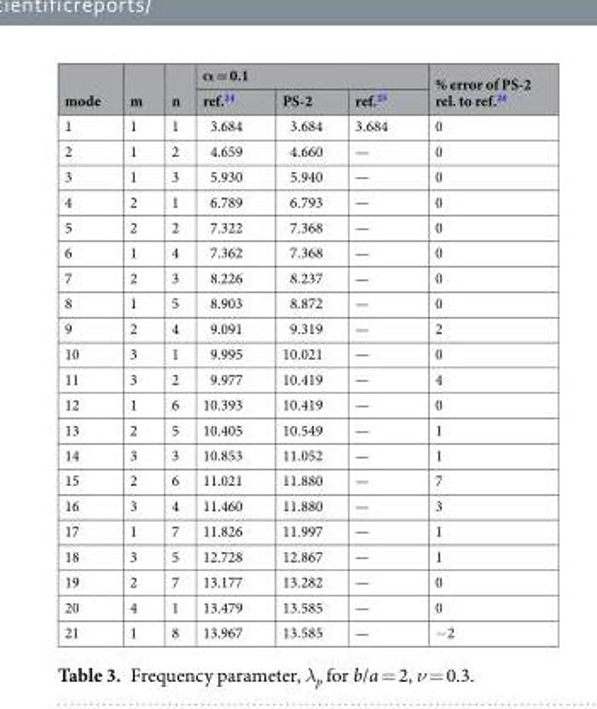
<table><thead><tr><td rowspan="2">mode</td><td rowspan="2">m</td><td rowspan="2">n</td><td colspan="3">α = 0.1</td><td rowspan="2">% error of PS-2 rel. to ref.<sup>24</sup></td></tr><tr><td>ref.<sup>24</sup></td><td>PS-2</td><td>ref.<sup>25</sup></td></tr></thead><tbody><tr><td>1</td><td>1</td><td>1</td><td>3.684</td><td>3.684</td><td>3.684</td><td>0</td></tr><tr><td>2</td><td>1</td><td>2</td><td>4.659</td><td>4.660</td><td>—</td><td>0</td></tr><tr><td>3</td><td>1</td><td>3</td><td>5.930</td><td>5.940</td><td>—</td><td>0</td></tr><tr><td>4</td><td>2</td><td>1</td><td>6.789</td><td>6.793</td><td>—</td><td>0</td></tr><tr><td>5</td><td>2</td><td>2</td><td>7.322</td><td>7.368</td><td>—</td><td>0</td></tr><tr><td>6</td><td>1</td><td>4</td><td>7.362</td><td>7.368</td><td>—</td><td>0</td></tr><tr><td>7</td><td>2</td><td>3</td><td>8.226</td><td>8.237</td><td>—</td><td>0</td></tr><tr><td>8</td><td>1</td><td>5</td><td>8.903</td><td>8.872</td><td>—</td><td>0</td></tr><tr><td>9</td><td>2</td><td>4</td><td>9.091</td><td>9.319</td><td>—</td><td>2</td></tr><tr><td>10</td><td>3</td><td>1</td><td>9.995</td><td>10.021</td><td>—</td><td>0</td></tr><tr><td>11</td><td>3</td><td>2</td><td>9.977</td><td>10.419</td><td>—</td><td>4</td></tr><tr><td>12</td><td>1</td><td>6</td><td>10.393</td><td>10.419</td><td>—</td><td>0</td></tr><tr><td>13</td><td>2</td><td>5</td><td>10.405</td><td>10.549</td><td>—</td><td>1</td></tr><tr><td>14</td><td>3</td><td>3</td><td>10.853</td><td>11.052</td><td>—</td><td>1</td></tr><tr><td>15</td><td>2</td><td>6</td><td>11.021</td><td>11.880</td><td>—</td><td>7</td></tr><tr><td>16</td><td>3</td><td>4</td><td>11.460</td><td>11.880</td><td>—</td><td>3</td></tr><tr><td>17</td><td>1</td><td>7</td><td>11.826</td><td>11.997</td><td>—</td><td>1</td></tr><tr><td>18</td><td>3</td><td>5</td><td>12.728</td><td>12.867</td><td>—</td><td>1</td></tr><tr><td>19</td><td>2</td><td>7</td><td>13.177</td><td>13.282</td><td>—</td><td>0</td></tr><tr><td>20</td><td>4</td><td>1</td><td>13.479</td><td>13.585</td><td>—</td><td>0</td></tr><tr><td>21</td><td>1</td><td>8</td><td>13.967</td><td>13.585</td><td>—</td><td>−2</td></tr></tbody></table>